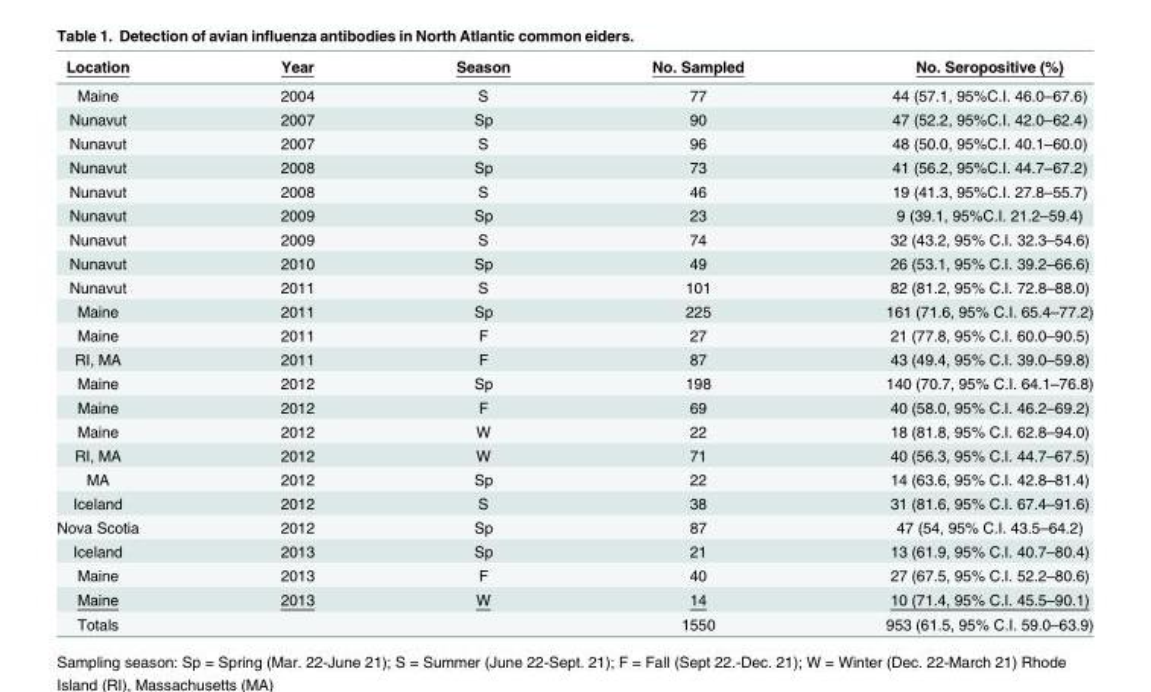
<table><thead><tr><td>Location</td><td>Year</td><td>Season</td><td>No. Sampled</td><td>No. Seropositive (%)</td></tr></thead><tbody><tr><td>Maine</td><td>2004</td><td>S</td><td>77</td><td>44 (57.1, 95%C.I. 46.0–67.6)</td></tr><tr><td>Nunavut</td><td>2007</td><td>Sp</td><td>90</td><td>47 (52.2, 95%C.I. 42.0–62.4)</td></tr><tr><td>Nunavut</td><td>2007</td><td>S</td><td>96</td><td>48 (50.0, 95%C.I. 40.1–60.0)</td></tr><tr><td>Nunavut</td><td>2008</td><td>Sp</td><td>73</td><td>41 (56.2, 95%C.I. 44.7–67.2)</td></tr><tr><td>Nunavut</td><td>2008</td><td>S</td><td>46</td><td>19 (41.3, 95%C.I. 27.8–55.7)</td></tr><tr><td>Nunavut</td><td>2009</td><td>Sp</td><td>23</td><td>9 (39.1, 95%C.I. 21.2–59.4)</td></tr><tr><td>Nunavut</td><td>2009</td><td>S</td><td>74</td><td>32 (43.2, 95% C.I. 32.3–54.6)</td></tr><tr><td>Nunavut</td><td>2010</td><td>Sp</td><td>49</td><td>26 (53.1, 95% C.I. 39.2–66.6)</td></tr><tr><td>Nunavut</td><td>2011</td><td>S</td><td>101</td><td>82 (81.2, 95% C.I. 72.8–88.0)</td></tr><tr><td>Maine</td><td>2011</td><td>Sp</td><td>225</td><td>161 (71.6, 95% C.I. 65.4–77.2)</td></tr><tr><td>Maine</td><td>2011</td><td>F</td><td>27</td><td>21 (77.8, 95% C.I. 60.0–90.5)</td></tr><tr><td>RI, MA</td><td>2011</td><td>F</td><td>87</td><td>43 (49.4, 95% C.I. 39.0–59.8)</td></tr><tr><td>Maine</td><td>2012</td><td>Sp</td><td>198</td><td>140 (70.7, 95% C.I. 64.1–76.8)</td></tr><tr><td>Maine</td><td>2012</td><td>F</td><td>69</td><td>40 (58.0, 95% C.I. 46.2–69.2)</td></tr><tr><td>Maine</td><td>2012</td><td>W</td><td>22</td><td>18 (81.8, 95% C.I. 62.8–94.0)</td></tr><tr><td>RI, MA</td><td>2012</td><td>W</td><td>71</td><td>40 (56.3, 95% C.I. 44.7–67.5)</td></tr><tr><td>MA</td><td>2012</td><td>Sp</td><td>22</td><td>14 (63.6, 95% C.I. 42.8–81.4)</td></tr><tr><td>Iceland</td><td>2012</td><td>S</td><td>38</td><td>31 (81.6, 95% C.I. 67.4–91.6)</td></tr><tr><td>Nova Scotia</td><td>2012</td><td>Sp</td><td>87</td><td>47 (54, 95% C.I. 43.5–64.2)</td></tr><tr><td>Iceland</td><td>2013</td><td>Sp</td><td>21</td><td>13 (61.9, 95% C.I. 40.7–80.4)</td></tr><tr><td>Maine</td><td>2013</td><td>F</td><td>40</td><td>27 (67.5, 95% C.I. 52.2–80.6)</td></tr><tr><td>Maine</td><td>2013</td><td>W</td><td>14</td><td>10 (71.4, 95% C.I. 45.5–90.1)</td></tr><tr><td>Totals</td><td></td><td></td><td>1550</td><td>953 (61.5, 95% C.I. 59.0–63.9)</td></tr></tbody></table>